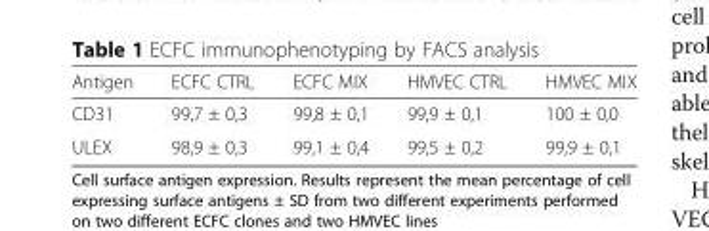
<table><thead><tr><td>Antigen</td><td>ECFC CTRL</td><td>ECFC MIX</td><td>HMVEC CTRL</td><td>HMVEC MIX</td></tr></thead><tbody><tr><td>CD31</td><td>99,7 ± 0,3</td><td>99,8 ± 0,1</td><td>99,9 ± 0,1</td><td>100 ± 0,0</td></tr><tr><td>ULEX</td><td>98,9 ± 0,3</td><td>99,1 ± 0,4</td><td>99,5 ± 0,2</td><td>99,9 ± 0,1</td></tr></tbody></table>